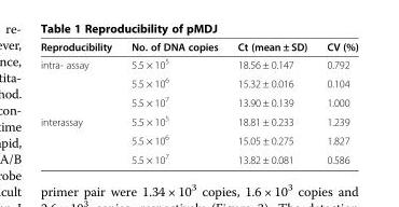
<table><thead><tr><td>Reproducibility</td><td>No. of DNA copies</td><td>Ct (mean ± SD)</td><td>CV (%)</td></tr></thead><tbody><tr><td rowspan="3">intra- assay</td><td>5.5 × 10<sup>5</sup></td><td>18.56 ± 0.147</td><td>0.792</td></tr><tr><td>5.5 × 10<sup>6</sup></td><td>15.32 ± 0.016</td><td>0.104</td></tr><tr><td>5.5 × 10<sup>7</sup></td><td>13.90 ± 0.139</td><td>1.000</td></tr><tr><td rowspan="3">interassay</td><td>5.5 × 10<sup>5</sup></td><td>18.81 ± 0.233</td><td>1.239</td></tr><tr><td>5.5 × 10<sup>6</sup></td><td>15.05 ± 0.275</td><td>1.827</td></tr><tr><td>5.5 × 10<sup>7</sup></td><td>13.82 ± 0.081</td><td>0.586</td></tr></tbody></table>